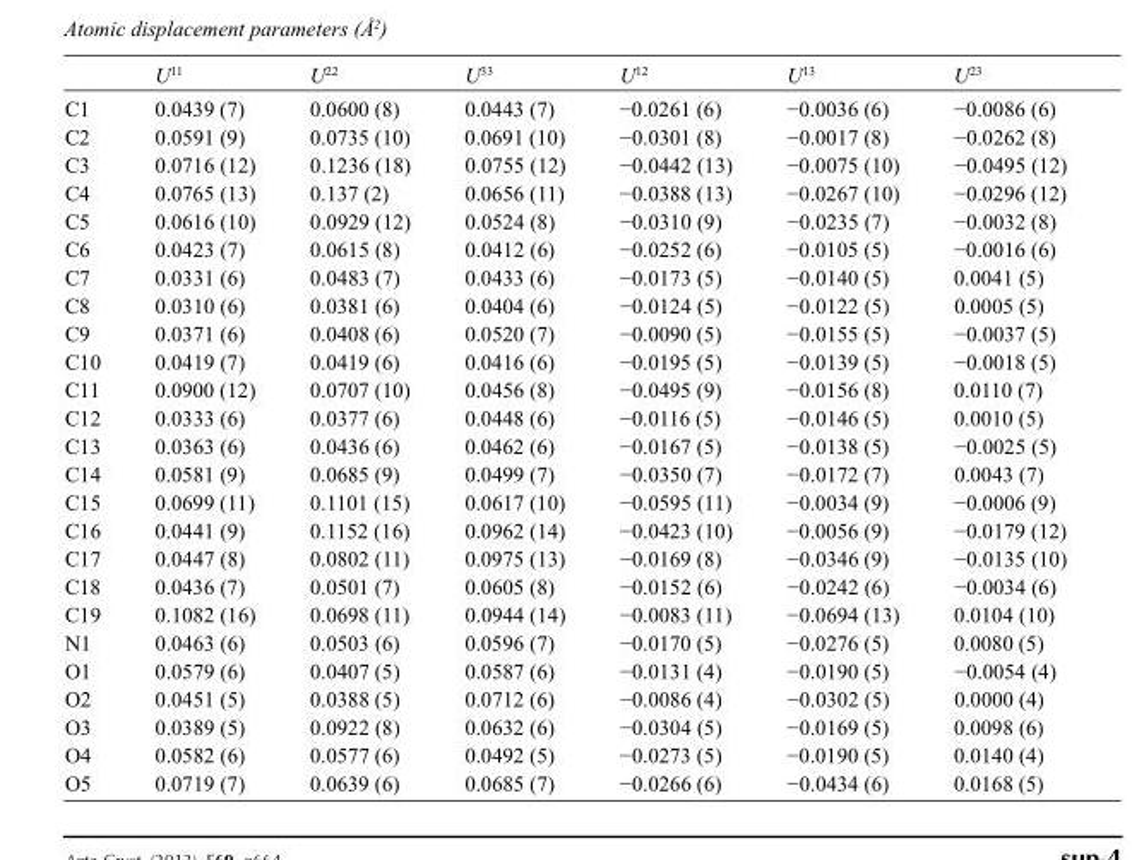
<table><thead><tr><td></td><td>U<sup>11</sup></td><td>U<sup>22</sup></td><td>U<sup>33</sup></td><td>U<sup>12</sup></td><td>U<sup>13</sup></td><td>U<sup>23</sup></td></tr></thead><tbody><tr><td>C1</td><td>0.0439 (7)</td><td>0.0600 (8)</td><td>0.0443 (7)</td><td>−0.0261 (6)</td><td>−0.0036 (6)</td><td>−0.0086 (6)</td></tr><tr><td>C2</td><td>0.0591 (9)</td><td>0.0735 (10)</td><td>0.0691 (10)</td><td>−0.0301 (8)</td><td>−0.0017 (8)</td><td>−0.0262 (8)</td></tr><tr><td>C3</td><td>0.0716 (12)</td><td>0.1236 (18)</td><td>0.0755 (12)</td><td>−0.0442 (13)</td><td>−0.0075 (10)</td><td>−0.0495 (12)</td></tr><tr><td>C4</td><td>0.0765 (13)</td><td>0.137 (2)</td><td>0.0656 (11)</td><td>−0.0388 (13)</td><td>−0.0267 (10)</td><td>−0.0296 (12)</td></tr><tr><td>C5</td><td>0.0616 (10)</td><td>0.0929 (12)</td><td>0.0524 (8)</td><td>−0.0310 (9)</td><td>−0.0235 (7)</td><td>−0.0032 (8)</td></tr><tr><td>C6</td><td>0.0423 (7)</td><td>0.0615 (8)</td><td>0.0412 (6)</td><td>−0.0252 (6)</td><td>−0.0105 (5)</td><td>−0.0016 (6)</td></tr><tr><td>C7</td><td>0.0331 (6)</td><td>0.0483 (7)</td><td>0.0433 (6)</td><td>−0.0173 (5)</td><td>−0.0140 (5)</td><td>0.0041 (5)</td></tr><tr><td>C8</td><td>0.0310 (6)</td><td>0.0381 (6)</td><td>0.0404 (6)</td><td>−0.0124 (5)</td><td>−0.0122 (5)</td><td>0.0005 (5)</td></tr><tr><td>C9</td><td>0.0371 (6)</td><td>0.0408 (6)</td><td>0.0520 (7)</td><td>−0.0090 (5)</td><td>−0.0155 (5)</td><td>−0.0037 (5)</td></tr><tr><td>C10</td><td>0.0419 (7)</td><td>0.0419 (6)</td><td>0.0416 (6)</td><td>−0.0195 (5)</td><td>−0.0139 (5)</td><td>−0.0018 (5)</td></tr><tr><td>C11</td><td>0.0900 (12)</td><td>0.0707 (10)</td><td>0.0456 (8)</td><td>−0.0495 (9)</td><td>−0.0156 (8)</td><td>0.0110 (7)</td></tr><tr><td>C12</td><td>0.0333 (6)</td><td>0.0377 (6)</td><td>0.0448 (6)</td><td>−0.0116 (5)</td><td>−0.0146 (5)</td><td>0.0010 (5)</td></tr><tr><td>C13</td><td>0.0363 (6)</td><td>0.0436 (6)</td><td>0.0462 (6)</td><td>−0.0167 (5)</td><td>−0.0138 (5)</td><td>−0.0025 (5)</td></tr><tr><td>C14</td><td>0.0581 (9)</td><td>0.0685 (9)</td><td>0.0499 (7)</td><td>−0.0350 (7)</td><td>−0.0172 (7)</td><td>0.0043 (7)</td></tr><tr><td>C15</td><td>0.0699 (11)</td><td>0.1101 (15)</td><td>0.0617 (10)</td><td>−0.0595 (11)</td><td>−0.0034 (9)</td><td>−0.0006 (9)</td></tr><tr><td>C16</td><td>0.0441 (9)</td><td>0.1152 (16)</td><td>0.0962 (14)</td><td>−0.0423 (10)</td><td>−0.0056 (9)</td><td>−0.0179 (12)</td></tr><tr><td>C17</td><td>0.0447 (8)</td><td>0.0802 (11)</td><td>0.0975 (13)</td><td>−0.0169 (8)</td><td>−0.0346 (9)</td><td>−0.0135 (10)</td></tr><tr><td>C18</td><td>0.0436 (7)</td><td>0.0501 (7)</td><td>0.0605 (8)</td><td>−0.0152 (6)</td><td>−0.0242 (6)</td><td>−0.0034 (6)</td></tr><tr><td>C19</td><td>0.1082 (16)</td><td>0.0698 (11)</td><td>0.0944 (14)</td><td>−0.0083 (11)</td><td>−0.0694 (13)</td><td>0.0104 (10)</td></tr><tr><td>N1</td><td>0.0463 (6)</td><td>0.0503 (6)</td><td>0.0596 (7)</td><td>−0.0170 (5)</td><td>−0.0276 (5)</td><td>0.0080 (5)</td></tr><tr><td>O1</td><td>0.0579 (6)</td><td>0.0407 (5)</td><td>0.0587 (6)</td><td>−0.0131 (4)</td><td>−0.0190 (5)</td><td>−0.0054 (4)</td></tr><tr><td>O2</td><td>0.0451 (5)</td><td>0.0388 (5)</td><td>0.0712 (6)</td><td>−0.0086 (4)</td><td>−0.0302 (5)</td><td>0.0000 (4)</td></tr><tr><td>O3</td><td>0.0389 (5)</td><td>0.0922 (8)</td><td>0.0632 (6)</td><td>−0.0304 (5)</td><td>−0.0169 (5)</td><td>0.0098 (6)</td></tr><tr><td>O4</td><td>0.0582 (6)</td><td>0.0577 (6)</td><td>0.0492 (5)</td><td>−0.0273 (5)</td><td>−0.0190 (5)</td><td>0.0140 (4)</td></tr><tr><td>O5</td><td>0.0719 (7)</td><td>0.0639 (6)</td><td>0.0685 (7)</td><td>−0.0266 (6)</td><td>−0.0434 (6)</td><td>0.0168 (5)</td></tr></tbody></table>